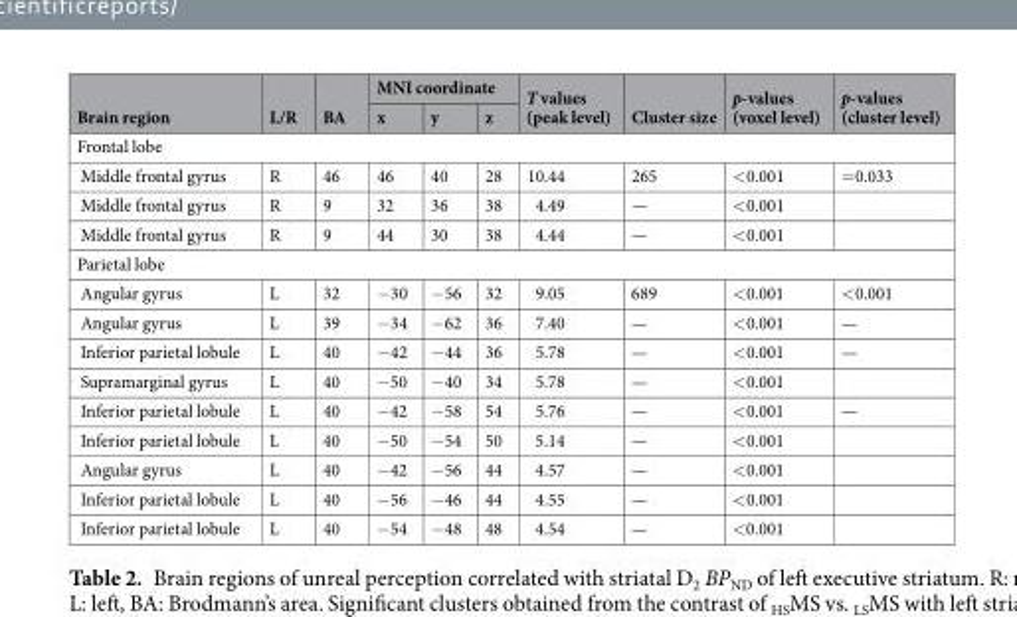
<table><thead><tr><td rowspan="2">Brain region</td><td rowspan="2">L/R</td><td rowspan="2">BA</td><td colspan="3">MNI coordinate</td><td rowspan="2">T values (peak level)</td><td rowspan="2">Cluster size</td><td rowspan="2">p-values (voxel level)</td><td rowspan="2">p-values (cluster level)</td></tr><tr><td>x</td><td>y</td><td>z</td></tr></thead><tbody><tr><td colspan="10">Frontal lobe</td></tr><tr><td>Middle frontal gyrus</td><td>R</td><td>46</td><td>46</td><td>40</td><td>28</td><td>10.44</td><td>265</td><td>&lt;0.001</td><td>=0.033</td></tr><tr><td>Middle frontal gyrus</td><td>R</td><td>9</td><td>32</td><td>36</td><td>38</td><td>4.49</td><td>—</td><td>&lt;0.001</td><td></td></tr><tr><td>Middle frontal gyrus</td><td>R</td><td>9</td><td>44</td><td>30</td><td>38</td><td>4.44</td><td>—</td><td>&lt;0.001</td><td></td></tr><tr><td colspan="10">Parietal lobe</td></tr><tr><td>Angular gyrus</td><td>L</td><td>32</td><td>−30</td><td>−56</td><td>32</td><td>9.05</td><td>689</td><td>&lt;0.001</td><td>&lt;0.001</td></tr><tr><td>Angular gyrus</td><td>L</td><td>39</td><td>−34</td><td>−62</td><td>36</td><td>7.40</td><td>—</td><td>&lt;0.001</td><td>—</td></tr><tr><td>Inferior parietal lobule</td><td>L</td><td>40</td><td>−42</td><td>−44</td><td>36</td><td>5.78</td><td>—</td><td>&lt;0.001</td><td>—</td></tr><tr><td>Supramarginal gyrus</td><td>L</td><td>40</td><td>−50</td><td>−40</td><td>34</td><td>5.78</td><td>—</td><td>&lt;0.001</td><td></td></tr><tr><td>Inferior parietal lobule</td><td>L</td><td>40</td><td>−42</td><td>−58</td><td>54</td><td>5.76</td><td>—</td><td>&lt;0.001</td><td>—</td></tr><tr><td>Inferior parietal lobule</td><td>L</td><td>40</td><td>−50</td><td>−54</td><td>50</td><td>5.14</td><td>—</td><td>&lt;0.001</td><td></td></tr><tr><td>Angular gyrus</td><td>L</td><td>40</td><td>−42</td><td>−56</td><td>44</td><td>4.57</td><td>—</td><td>&lt;0.001</td><td></td></tr><tr><td>Inferior parietal lobule</td><td>L</td><td>40</td><td>−56</td><td>−46</td><td>44</td><td>4.55</td><td>—</td><td>&lt;0.001</td><td></td></tr><tr><td>Inferior parietal lobule</td><td>L</td><td>40</td><td>−54</td><td>−48</td><td>48</td><td>4.54</td><td>—</td><td>&lt;0.001</td><td></td></tr></tbody></table>